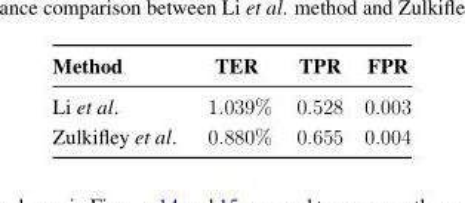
<table><thead><tr><td>Method</td><td>TER</td><td>TPR</td><td>FPR</td></tr></thead><tbody><tr><td>Li et al.</td><td>1.039%</td><td>0.528</td><td>0.003</td></tr><tr><td>Zulkifley et al.</td><td>0.880%</td><td>0.655</td><td>0.004</td></tr></tbody></table>